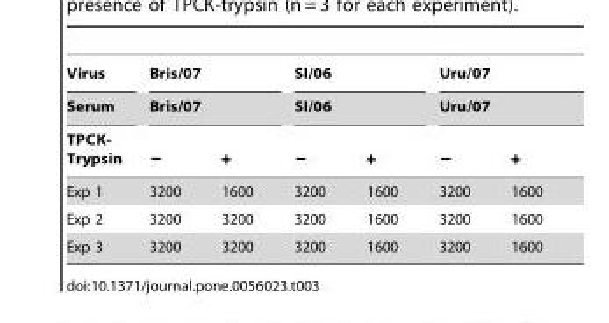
<table><thead><tr><td rowspan="3">Virus Serum TPCK- Trypsin</td><td rowspan="2" colspan="2">Bris/07 Bris/07</td><td rowspan="2" colspan="2">SI/06 SI/06</td><td rowspan="2" colspan="2">Uru/07 Uru/07</td></tr><tr></tr><tr><td>−</td><td>+</td><td>−</td><td>+</td><td>−</td><td>+</td></tr></thead><tbody><tr><td>Exp 1</td><td>3200</td><td>1600</td><td>3200</td><td>1600</td><td>3200</td><td>1600</td></tr><tr><td>Exp 2</td><td>3200</td><td>3200</td><td>3200</td><td>1600</td><td>3200</td><td>1600</td></tr><tr><td>Exp 3</td><td>3200</td><td>3200</td><td>3200</td><td>1600</td><td>3200</td><td>1600</td></tr></tbody></table>